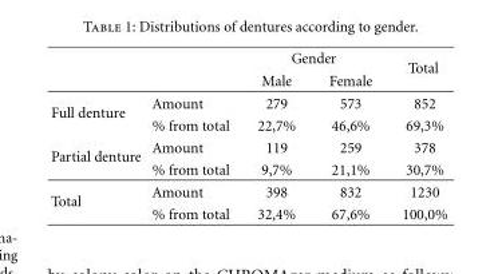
<table><thead><tr><td rowspan="2"></td><td rowspan="2"></td><td colspan="2">Gender</td><td rowspan="2">Total</td></tr><tr><td>Male</td><td>Female</td></tr></thead><tbody><tr><td rowspan="2">Full denture</td><td>Amount</td><td>279</td><td>573</td><td>852</td></tr><tr><td>% from total</td><td>22,7%</td><td>46,6%</td><td>69,3%</td></tr><tr><td rowspan="2">Partial denture</td><td>Amount</td><td>119</td><td>259</td><td>378</td></tr><tr><td>% from total</td><td>9,7%</td><td>21,1%</td><td>30,7%</td></tr><tr><td rowspan="2">Total</td><td>Amount</td><td>398</td><td>832</td><td>1230</td></tr><tr><td>% from total</td><td>32,4%</td><td>67,6%</td><td>100,0%</td></tr></tbody></table>